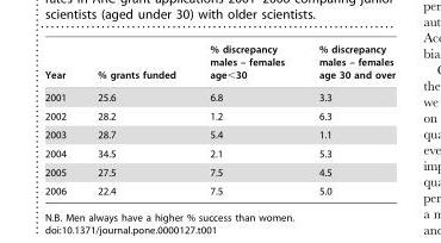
<table><thead><tr><td>Year</td><td>% grants funded</td><td>% discrepancy males – females age&lt;30</td><td>% discrepancy males – females age 30 and over</td></tr></thead><tbody><tr><td>2001</td><td>25.6</td><td>6.8</td><td>3.3</td></tr><tr><td>2002</td><td>28.2</td><td>1.2</td><td>6.3</td></tr><tr><td>2003</td><td>28.7</td><td>5.4</td><td>1.1</td></tr><tr><td>2004</td><td>34.5</td><td>2.1</td><td>5.3</td></tr><tr><td>2005</td><td>27.5</td><td>7.5</td><td>4.5</td></tr><tr><td>2006</td><td>22.4</td><td>7.5</td><td>5.0</td></tr></tbody></table>